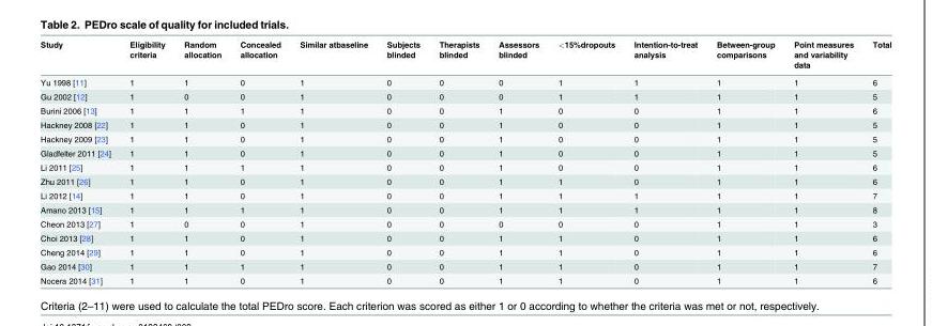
<table><thead><tr><td>Study</td><td>Eligibility criteria</td><td>Random allocation</td><td>Concealed allocation</td><td>Similar atbaseline</td><td>Subjects blinded</td><td>Therapists blinded</td><td>Assessors blinded</td><td>&lt;15%dropouts</td><td>Intention-to-treat analysis</td><td>Between-group comparisons</td><td>Point measures and variability data</td><td>Total</td></tr></thead><tbody><tr><td>Yu 1998 [11]</td><td>1</td><td>1</td><td>0</td><td>1</td><td>0</td><td>0</td><td>0</td><td>1</td><td>1</td><td>1</td><td>1</td><td>6</td></tr><tr><td>Gu 2002 [12]</td><td>1</td><td>0</td><td>0</td><td>1</td><td>0</td><td>0</td><td>0</td><td>1</td><td>1</td><td>1</td><td>1</td><td>5</td></tr><tr><td>Burini 2006 [13]</td><td>1</td><td>1</td><td>1</td><td>1</td><td>0</td><td>0</td><td>1</td><td>0</td><td>0</td><td>1</td><td>1</td><td>6</td></tr><tr><td>Hackney 2008 [22]</td><td>1</td><td>1</td><td>0</td><td>1</td><td>0</td><td>0</td><td>1</td><td>0</td><td>0</td><td>1</td><td>1</td><td>5</td></tr><tr><td>Hackney 2009 [23]</td><td>1</td><td>1</td><td>0</td><td>1</td><td>0</td><td>0</td><td>1</td><td>0</td><td>0</td><td>1</td><td>1</td><td>5</td></tr><tr><td>Gladfelter 2011 [24]</td><td>1</td><td>1</td><td>0</td><td>1</td><td>0</td><td>0</td><td>1</td><td>0</td><td>0</td><td>1</td><td>1</td><td>5</td></tr><tr><td>Li 2011 [25]</td><td>1</td><td>1</td><td>1</td><td>1</td><td>0</td><td>0</td><td>1</td><td>0</td><td>0</td><td>1</td><td>1</td><td>6</td></tr><tr><td>Zhu 2011 [26]</td><td>1</td><td>1</td><td>0</td><td>1</td><td>0</td><td>0</td><td>1</td><td>1</td><td>0</td><td>1</td><td>1</td><td>6</td></tr><tr><td>Li 2012 [14]</td><td>1</td><td>1</td><td>0</td><td>1</td><td>0</td><td>0</td><td>1</td><td>1</td><td>1</td><td>1</td><td>1</td><td>7</td></tr><tr><td>Amano 2013 [15]</td><td>1</td><td>1</td><td>1</td><td>1</td><td>0</td><td>0</td><td>1</td><td>1</td><td>1</td><td>1</td><td>1</td><td>8</td></tr><tr><td>Cheon 2013 [27]</td><td>1</td><td>0</td><td>0</td><td>1</td><td>0</td><td>0</td><td>0</td><td>0</td><td>0</td><td>1</td><td>1</td><td>3</td></tr><tr><td>Choi 2013 [28]</td><td>1</td><td>1</td><td>0</td><td>1</td><td>0</td><td>0</td><td>1</td><td>1</td><td>0</td><td>1</td><td>1</td><td>6</td></tr><tr><td>Cheng 2014 [29]</td><td>1</td><td>1</td><td>0</td><td>1</td><td>0</td><td>0</td><td>1</td><td>1</td><td>0</td><td>1</td><td>1</td><td>6</td></tr><tr><td>Gao 2014 [30]</td><td>1</td><td>1</td><td>1</td><td>1</td><td>0</td><td>0</td><td>1</td><td>1</td><td>0</td><td>1</td><td>1</td><td>7</td></tr><tr><td>Nocera 2014 [31]</td><td>1</td><td>1</td><td>0</td><td>1</td><td>0</td><td>0</td><td>1</td><td>1</td><td>0</td><td>1</td><td>1</td><td>6</td></tr></tbody></table>